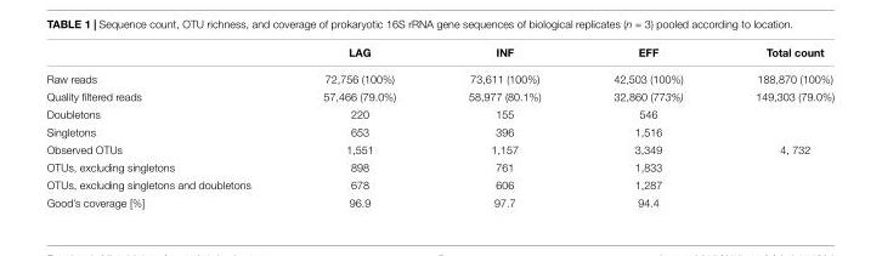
<table><thead><tr><td></td><td>LAG</td><td>INF</td><td>EFF</td><td>Total count</td></tr></thead><tbody><tr><td>Raw reads</td><td>72,756 (100%)</td><td>73,611 (100%)</td><td>42,503 (100%)</td><td>188,870 (100%)</td></tr><tr><td>Quality filtered reads</td><td>57,466 (79.0%)</td><td>58,977 (80.1%)</td><td>32,860 (773%)</td><td>149,303 (79.0%)</td></tr><tr><td>Doubletons</td><td>220</td><td>155</td><td>546</td><td></td></tr><tr><td>Singletons</td><td>653</td><td>396</td><td>1,516</td><td></td></tr><tr><td>Observed OTUs</td><td>1,551</td><td>1,157</td><td>3,349</td><td>4, 732</td></tr><tr><td>OTUs, excluding singletons</td><td>898</td><td>761</td><td>1,833</td><td></td></tr><tr><td>OTUs, excluding singletons and doubletons</td><td>678</td><td>606</td><td>1,287</td><td></td></tr><tr><td>Good’s coverage [%]</td><td>96.9</td><td>97.7</td><td>94.4</td><td></td></tr></tbody></table>